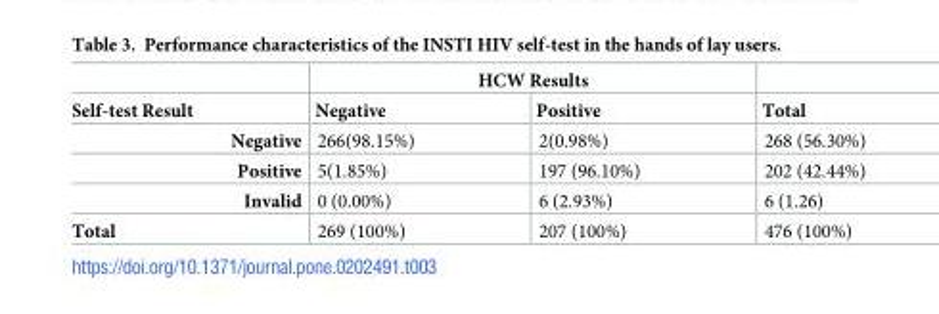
<table><thead><tr><td rowspan="2">Self-test Result</td><td colspan="2">HCW Results</td><td rowspan="2">Total</td></tr><tr><td>Negative</td><td>Positive</td></tr></thead><tbody><tr><td>Negative</td><td>266(98.15%)</td><td>2(0.98%)</td><td>268 (56.30%)</td></tr><tr><td>Positive</td><td>5(1.85%)</td><td>197 (96.10%)</td><td>202 (42.44%)</td></tr><tr><td>Invalid</td><td>0 (0.00%)</td><td>6 (2.93%)</td><td>6 (1.26)</td></tr><tr><td>Total</td><td>269 (100%)</td><td>207 (100%)</td><td>476 (100%)</td></tr></tbody></table>